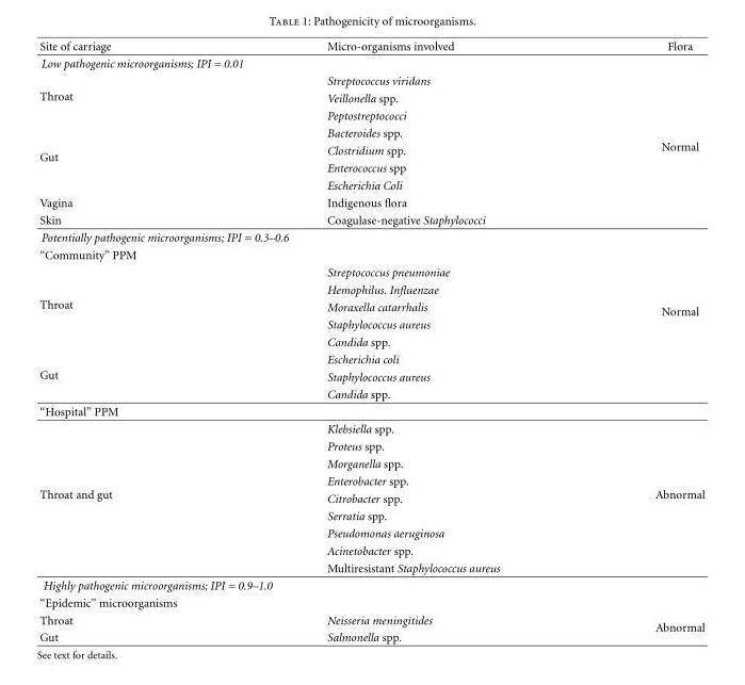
<table><thead><tr><td>Site of carriage</td><td>Micro-organisms involved</td><td>Flora</td></tr></thead><tbody><tr><td colspan="3">Low pathogenic microorganisms; IPI = 0.01</td></tr><tr><td rowspan="3">Throat</td><td>Streptococcus viridans</td><td rowspan="9">Normal</td></tr><tr><td>Veillonella spp.</td></tr><tr><td>Peptostreptococci</td></tr><tr><td rowspan="4">Gut</td><td>Bacteroides spp.</td></tr><tr><td>Clostridium spp.</td></tr><tr><td>Enterococcus spp</td></tr><tr><td>Escherichia Coli</td></tr><tr><td>Vagina</td><td>Indigenous flora</td></tr><tr><td>Skin</td><td>Coagulase-negative Staphylococci</td></tr><tr><td colspan="2">Potentially pathogenic microorganisms; IPI = 0.3–0.6</td><td rowspan="10">Normal</td></tr><tr><td colspan="2">“Community” PPM</td></tr><tr><td rowspan="5">Throat</td><td>Streptococcus pneumoniae</td></tr><tr><td>Hemophilus. Influenzae</td></tr><tr><td>Moraxella catarrhalis</td></tr><tr><td>Staphylococcus aureus</td></tr><tr><td>Candida spp.</td></tr><tr><td rowspan="3">Gut</td><td>Escherichia coli</td></tr><tr><td>Staphylococcus aureus</td></tr><tr><td>Candida spp.</td></tr><tr><td colspan="3">“Hospital” PPM</td></tr><tr><td rowspan="9">Throat and gut</td><td>Klebsiella spp.</td><td rowspan="9">Abnormal</td></tr><tr><td>Proteus spp.</td></tr><tr><td>Morganella spp.</td></tr><tr><td>Enterobacter spp.</td></tr><tr><td>Citrobacter spp.</td></tr><tr><td>Serratia spp.</td></tr><tr><td>Pseudomonas aeruginosa</td></tr><tr><td>Acinetobacter spp.</td></tr><tr><td>Multiresistant Staphylococcus aureus</td></tr><tr><td colspan="3">Highly pathogenic microorganisms; IPI = 0.9–1.0</td></tr><tr><td colspan="3">“Epidemic” microorganisms</td></tr><tr><td>Throat</td><td>Neisseria meningitides</td><td rowspan="2">Abnormal</td></tr><tr><td>Gut</td><td>Salmonella spp.</td></tr></tbody></table>